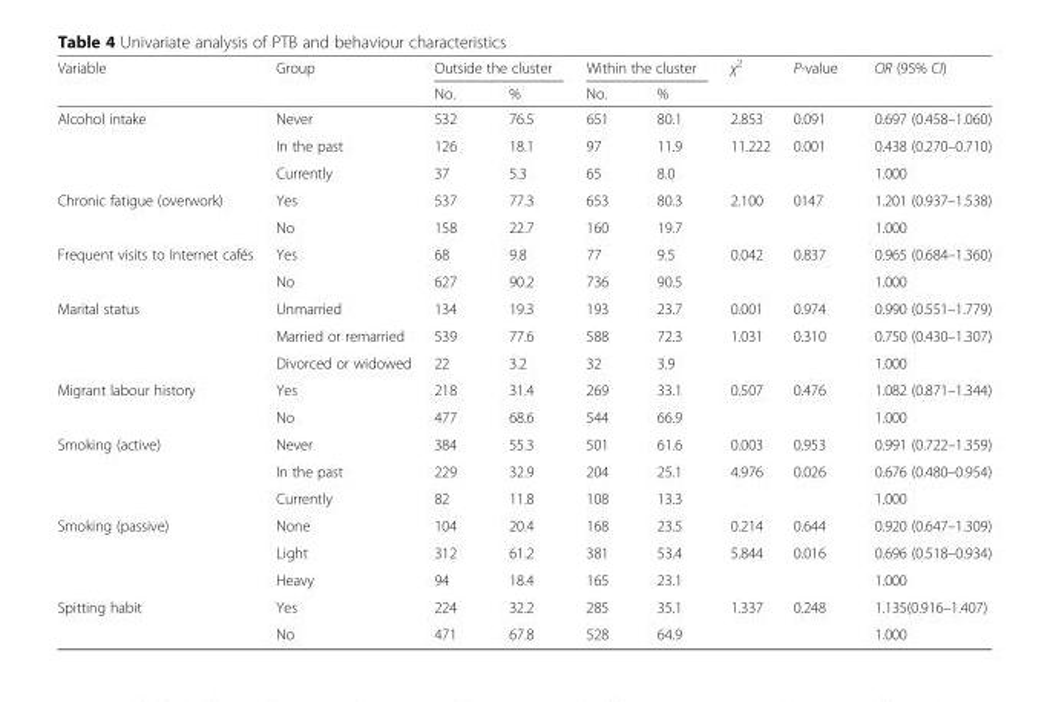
<table><thead><tr><td rowspan="2">Variable</td><td rowspan="2">Group</td><td colspan="2">Outside the cluster</td><td colspan="2">Within the cluster</td><td rowspan="2">χ<sup>2</sup></td><td rowspan="2">P-value</td><td rowspan="2">OR (95% CI)</td></tr><tr><td>No.</td><td>%</td><td>No.</td><td>%</td></tr></thead><tbody><tr><td rowspan="3">Alcohol intake</td><td>Never</td><td>532</td><td>76.5</td><td>651</td><td>80.1</td><td>2.853</td><td>0.091</td><td>0.697 (0.458–1.060)</td></tr><tr><td>In the past</td><td>126</td><td>18.1</td><td>97</td><td>11.9</td><td>11.222</td><td>0.001</td><td>0.438 (0.270–0.710)</td></tr><tr><td>Currently</td><td>37</td><td>5.3</td><td>65</td><td>8.0</td><td></td><td></td><td>1.000</td></tr><tr><td rowspan="2">Chronic fatigue (overwork)</td><td>Yes</td><td>537</td><td>77.3</td><td>653</td><td>80.3</td><td>2.100</td><td>0147</td><td>1.201 (0.937–1.538)</td></tr><tr><td>No</td><td>158</td><td>22.7</td><td>160</td><td>19.7</td><td></td><td></td><td>1.000</td></tr><tr><td rowspan="2">Frequent visits to Internet cafés</td><td>Yes</td><td>68</td><td>9.8</td><td>77</td><td>9.5</td><td>0.042</td><td>0.837</td><td>0.965 (0.684–1.360)</td></tr><tr><td>No</td><td>627</td><td>90.2</td><td>736</td><td>90.5</td><td></td><td></td><td>1.000</td></tr><tr><td rowspan="3">Marital status</td><td>Unmarried</td><td>134</td><td>19.3</td><td>193</td><td>23.7</td><td>0.001</td><td>0.974</td><td>0.990 (0.551–1.779)</td></tr><tr><td>Married or remarried</td><td>539</td><td>77.6</td><td>588</td><td>72.3</td><td>1.031</td><td>0.310</td><td>0.750 (0.430–1.307)</td></tr><tr><td>Divorced or widowed</td><td>22</td><td>3.2</td><td>32</td><td>3.9</td><td></td><td></td><td>1.000</td></tr><tr><td rowspan="2">Migrant labour history</td><td>Yes</td><td>218</td><td>31.4</td><td>269</td><td>33.1</td><td>0.507</td><td>0.476</td><td>1.082 (0.871–1.344)</td></tr><tr><td>No</td><td>477</td><td>68.6</td><td>544</td><td>66.9</td><td></td><td></td><td>1.000</td></tr><tr><td rowspan="3">Smoking (active)</td><td>Never</td><td>384</td><td>55.3</td><td>501</td><td>61.6</td><td>0.003</td><td>0.953</td><td>0.991 (0.722–1.359)</td></tr><tr><td>In the past</td><td>229</td><td>32.9</td><td>204</td><td>25.1</td><td>4.976</td><td>0.026</td><td>0.676 (0.480–0.954)</td></tr><tr><td>Currently</td><td>82</td><td>11.8</td><td>108</td><td>13.3</td><td></td><td></td><td>1.000</td></tr><tr><td rowspan="3">Smoking (passive)</td><td>None</td><td>104</td><td>20.4</td><td>168</td><td>23.5</td><td>0.214</td><td>0.644</td><td>0.920 (0.647–1.309)</td></tr><tr><td>Light</td><td>312</td><td>61.2</td><td>381</td><td>53.4</td><td>5.844</td><td>0.016</td><td>0.696 (0.518–0.934)</td></tr><tr><td>Heavy</td><td>94</td><td>18.4</td><td>165</td><td>23.1</td><td></td><td></td><td>1.000</td></tr><tr><td rowspan="2">Spitting habit</td><td>Yes</td><td>224</td><td>32.2</td><td>285</td><td>35.1</td><td>1.337</td><td>0.248</td><td>1.135(0.916–1.407)</td></tr><tr><td>No</td><td>471</td><td>67.8</td><td>528</td><td>64.9</td><td></td><td></td><td>1.000</td></tr></tbody></table>